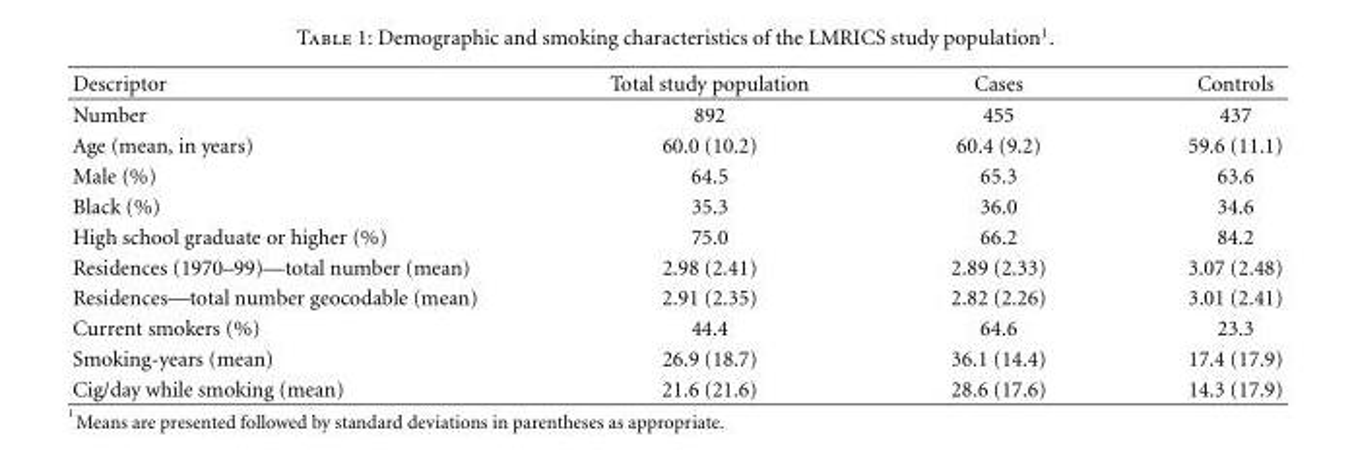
<table><thead><tr><td>Descriptor</td><td>Total study population</td><td>Cases</td><td>Controls</td></tr></thead><tbody><tr><td>Number</td><td>892</td><td>455</td><td>437</td></tr><tr><td>Age (mean, in years)</td><td>60.0 (10.2)</td><td>60.4 (9.2)</td><td>59.6 (11.1)</td></tr><tr><td>Male (%)</td><td>64.5</td><td>65.3</td><td>63.6</td></tr><tr><td>Black (%)</td><td>35.3</td><td>36.0</td><td>34.6</td></tr><tr><td>High school graduate or higher (%)</td><td>75.0</td><td>66.2</td><td>84.2</td></tr><tr><td>Residences (1970–99)—total number (mean)</td><td>2.98 (2.41)</td><td>2.89 (2.33)</td><td>3.07 (2.48)</td></tr><tr><td>Residences—total number geocodable (mean)</td><td>2.91 (2.35)</td><td>2.82 (2.26)</td><td>3.01 (2.41)</td></tr><tr><td>Current smokers (%)</td><td>44.4</td><td>64.6</td><td>23.3</td></tr><tr><td>Smoking-years (mean)</td><td>26.9 (18.7)</td><td>36.1 (14.4)</td><td>17.4 (17.9)</td></tr><tr><td>Cig/day while smoking (mean)</td><td>21.6 (21.6)</td><td>28.6 (17.6)</td><td>14.3 (17.9)</td></tr></tbody></table>